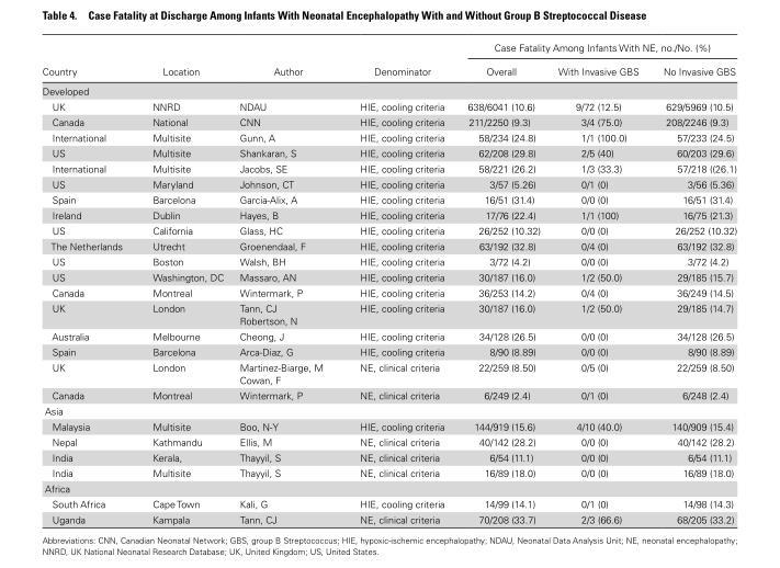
<table><thead><tr><td rowspan="2">Country</td><td rowspan="2">Location</td><td rowspan="2">Author</td><td rowspan="2">Denominator</td><td colspan="3">Case Fatality Among Infants With NE, no./No. (%)</td></tr><tr><td>Overall</td><td>With Invasive GBS</td><td>No Invasive GBS</td></tr></thead><tbody><tr><td colspan="7">Developed</td></tr><tr><td>UK</td><td>NNRD</td><td>NDAU</td><td>HIE, cooling criteria</td><td>638/6041 (10.6)</td><td>9/72 (12.5)</td><td>629/5969 (10.5)</td></tr><tr><td>Canada</td><td>National</td><td>CNN</td><td>HIE, cooling criteria</td><td>211/2250 (9.3)</td><td>3/4 (75.0)</td><td>208/2246 (9.3)</td></tr><tr><td>International</td><td>Multisite</td><td>Gunn, A</td><td>HIE, cooling criteria</td><td>58/234 (24.8)</td><td>1/1 (100.0)</td><td>57/233 (24.5)</td></tr><tr><td>US</td><td>Multisite</td><td>Shankaran, S</td><td>HIE, cooling criteria</td><td>62/208 (29.8)</td><td>2/5 (40)</td><td>60/203 (29.6)</td></tr><tr><td>International</td><td>Multisite</td><td>Jacobs, SE</td><td>HIE, cooling criteria</td><td>58/221 (26.2)</td><td>1/3 (33.3)</td><td>57/218 ((26.1)</td></tr><tr><td>US</td><td>Maryland</td><td>Johnson, CT</td><td>HIE, cooling criteria</td><td>3/57 (5.26)</td><td>0/1 (0)</td><td>3/56 (5.36)</td></tr><tr><td>Spain</td><td>Barcelona</td><td>Garcia-Alix, A</td><td>HIE, cooling criteria</td><td>16/51 (31.4)</td><td>0/0 (0)</td><td>16/51 (31.4)</td></tr><tr><td>Ireland</td><td>Dublin</td><td>Hayes, B</td><td>HIE, cooling criteria</td><td>17/76 (22.4)</td><td>1/1 (100)</td><td>16/75 (21.3)</td></tr><tr><td>US</td><td>California</td><td>Glass, HC</td><td>HIE, cooling criteria</td><td>26/252 (10.32)</td><td>0/0 (0)</td><td>26/252 (10.32)</td></tr><tr><td>The Netherlands</td><td>Utrecht</td><td>Groenendaal, F</td><td>HIE, cooling criteria</td><td>63/192 (32.8)</td><td>0/4 (0)</td><td>63/192 (32.8)</td></tr><tr><td>US</td><td>Boston</td><td>Walsh, BH</td><td>HIE, cooling criteria</td><td>3/72 (4.2)</td><td>0/0 (0)</td><td>3/72 (4.2)</td></tr><tr><td>US</td><td>Washington, DC</td><td>Massaro, AN</td><td>HIE, cooling criteria</td><td>30/187 (16.0)</td><td>1/2 (50.0)</td><td>29/185 (15.7)</td></tr><tr><td>Canada</td><td>Montreal</td><td>Wintermark, P</td><td>HIE, cooling criteria</td><td>36/253 (14.2)</td><td>0/4 (0)</td><td>36/249 (14.5)</td></tr><tr><td>UK</td><td>London</td><td>Tann, CJ Robertson, N</td><td>HIE, cooling criteria</td><td>30/187 (16.0)</td><td>1/2 (50.0)</td><td>29/185 (14.7)</td></tr><tr><td>Australia</td><td>Melbourne</td><td>Cheong, J</td><td>HIE, cooling criteria</td><td>34/128 (26.5)</td><td>0/0 (0)</td><td>34/128 (26.5)</td></tr><tr><td>Spain</td><td>Barcelona</td><td>Arca-Diaz, G</td><td>HIE, cooling criteria</td><td>8/90 (8.89)</td><td>0/0 (0)</td><td>8/90 (8.89)</td></tr><tr><td>UK</td><td>London</td><td>Martinez-Biarge, M Cowan, F</td><td>NE, clinical criteria</td><td>22/259 (8.50)</td><td>0/5 (0)</td><td>22/259 (8.50)</td></tr><tr><td>Canada</td><td>Montreal</td><td>Wintermark, P</td><td>NE, clinical criteria</td><td>6/249 (2.4)</td><td>0/1 (0)</td><td>6/248 (2.4)</td></tr><tr><td colspan="7">Asia</td></tr><tr><td>Malaysia</td><td>Multisite</td><td>Boo, N-Y</td><td>HIE, cooling criteria</td><td>144/919 (15.6)</td><td>4/10 (40.0)</td><td>140/909 (15.4)</td></tr><tr><td>Nepal</td><td>Kathmandu</td><td>Ellis, M</td><td>NE, clinical criteria</td><td>40/142 (28.2)</td><td>0/0 (0)</td><td>40/142 (28.2)</td></tr><tr><td>India</td><td>Kerala,</td><td>Thayyil, S</td><td>NE, clinical criteria</td><td>6/54 (11.1)</td><td>0/0 (0)</td><td>6/54 (11.1)</td></tr><tr><td>India</td><td>Multisite</td><td>Thayyil, S</td><td>NE, clinical criteria</td><td>16/89 (18.0)</td><td>0/0 (0)</td><td>16/89 (18.0)</td></tr><tr><td colspan="7">Africa</td></tr><tr><td>South Africa</td><td>Cape Town</td><td>Kali, G</td><td>HIE, cooling criteria</td><td>14/99 (14.1)</td><td>0/1 (0)</td><td>14/98 (14.3)</td></tr><tr><td>Uganda</td><td>Kampala</td><td>Tann, CJ</td><td>NE, clinical criteria</td><td>70/208 (33.7)</td><td>2/3 (66.6)</td><td>68/205 (33.2)</td></tr></tbody></table>